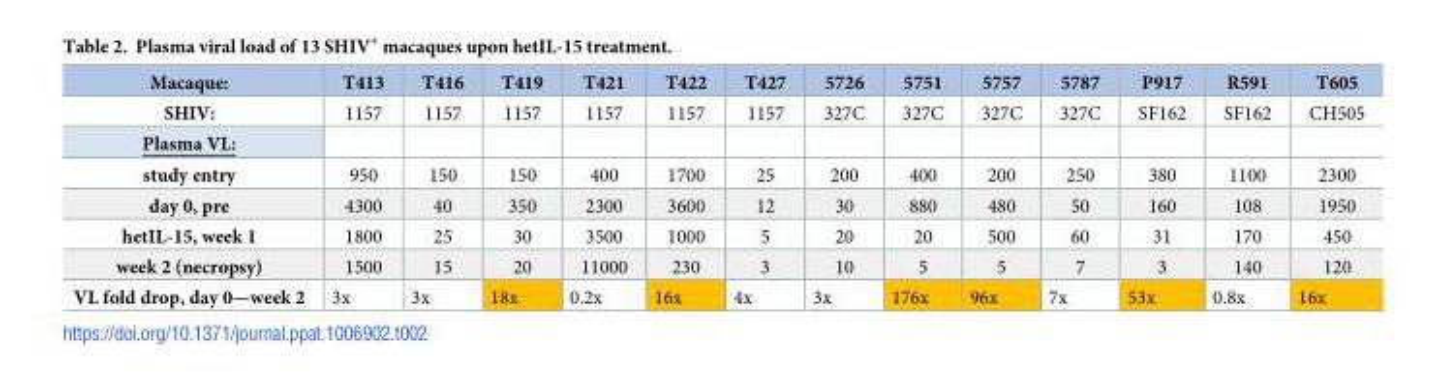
<table><thead><tr><td>Macaque:</td><td>T413</td><td>T416</td><td>T419</td><td>T421</td><td>T422</td><td>T427</td><td>5726</td><td>5751</td><td>5757</td><td>5787</td><td>P917</td><td>R591</td><td>T605</td></tr></thead><tbody><tr><td>SHIV:</td><td>1157</td><td>1157</td><td>1157</td><td>1157</td><td>1157</td><td>1157</td><td>327C</td><td>327C</td><td>327C</td><td>327C</td><td>SF162</td><td>SF162</td><td>CH505</td></tr><tr><td colspan="14">Plasma VL:</td></tr><tr><td>study entry</td><td>950</td><td>150</td><td>150</td><td>400</td><td>1700</td><td>25</td><td>200</td><td>400</td><td>200</td><td>250</td><td>380</td><td>1100</td><td>2300</td></tr><tr><td>day 0, pre</td><td>4300</td><td>40</td><td>350</td><td>2300</td><td>3600</td><td>12</td><td>30</td><td>880</td><td>480</td><td>50</td><td>160</td><td>108</td><td>1950</td></tr><tr><td>hetIL-15, week 1</td><td>1800</td><td>25</td><td>30</td><td>3500</td><td>1000</td><td>5</td><td>20</td><td>20</td><td>500</td><td>60</td><td>31</td><td>170</td><td>450</td></tr><tr><td>week 2 (necropsy)</td><td>1500</td><td>15</td><td>20</td><td>11000</td><td>230</td><td>3</td><td>10</td><td>5</td><td>5</td><td>7</td><td>3</td><td>140</td><td>120</td></tr><tr><td>VL fold drop, day 0—week 2</td><td>3x</td><td>3x</td><td>18x</td><td>0.2x</td><td>16x</td><td>4x</td><td>3x</td><td>176x</td><td>96x</td><td>7x</td><td>53x</td><td>0.8x</td><td>16x</td></tr></tbody></table>